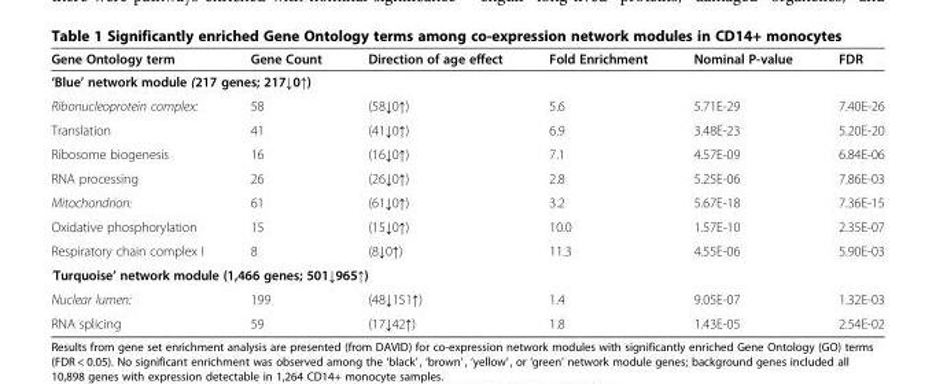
<table><thead><tr><td>Gene Ontology term</td><td>Gene Count</td><td>Direction of age effect</td><td>Fold Enrichment</td><td>Nominal P-value</td><td>FDR</td></tr></thead><tbody><tr><td colspan="6">‘Blue’ network module (217 genes; 217↓0↑)</td></tr><tr><td>Ribonucleoprotein complex:</td><td>58</td><td>(58↓0↑)</td><td>5.6</td><td>5.71E-29</td><td>7.40E-26</td></tr><tr><td>Translation</td><td>41</td><td>(41↓0↑)</td><td>6.9</td><td>3.48E-23</td><td>5.20E-20</td></tr><tr><td>Ribosome biogenesis</td><td>16</td><td>(16↓0↑)</td><td>7.1</td><td>4.57E-09</td><td>6.84E-06</td></tr><tr><td>RNA processing</td><td>26</td><td>(26↓0↑)</td><td>2.8</td><td>5.25E-06</td><td>7.86E-03</td></tr><tr><td>Mitochondrion:</td><td>61</td><td>(61↓0↑)</td><td>3.2</td><td>5.67E-18</td><td>7.36E-15</td></tr><tr><td>Oxidative phosphorylation</td><td>15</td><td>(15↓0↑)</td><td>10.0</td><td>1.57E-10</td><td>2.35E-07</td></tr><tr><td>Respiratory chain complex I</td><td>8</td><td>(8↓0↑)</td><td>11.3</td><td>4.55E-06</td><td>5.90E-03</td></tr><tr><td colspan="6">‘Turquoise’ network module (1,466 genes; 501↓965↑)</td></tr><tr><td>Nuclear lumen:</td><td>199</td><td>(48↓151↑)</td><td>1.4</td><td>9.05E-07</td><td>1.32E-03</td></tr><tr><td>RNA splicing</td><td>59</td><td>(17↓42↑)</td><td>1.8</td><td>1.43E-05</td><td>2.54E-02</td></tr></tbody></table>